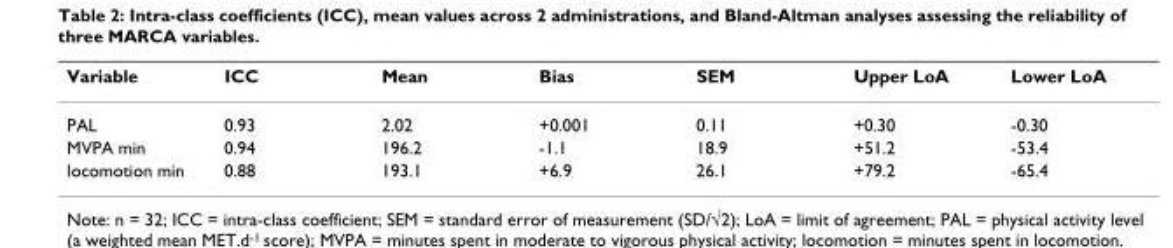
<table><thead><tr><td>Variable</td><td>ICC</td><td>Mean</td><td>Bias</td><td>SEM</td><td>Upper LoA</td><td>Lower LoA</td></tr></thead><tbody><tr><td>PAL</td><td>0.93</td><td>2.02</td><td>+0.001</td><td>0.11</td><td>+0.30</td><td>-0.30</td></tr><tr><td>MVPA min</td><td>0.94</td><td>196.2</td><td>-1.1</td><td>18.9</td><td>+51.2</td><td>-53.4</td></tr><tr><td>locomotion min</td><td>0.88</td><td>193.1</td><td>+6.9</td><td>26.1</td><td>+79.2</td><td>-65.4</td></tr></tbody></table>